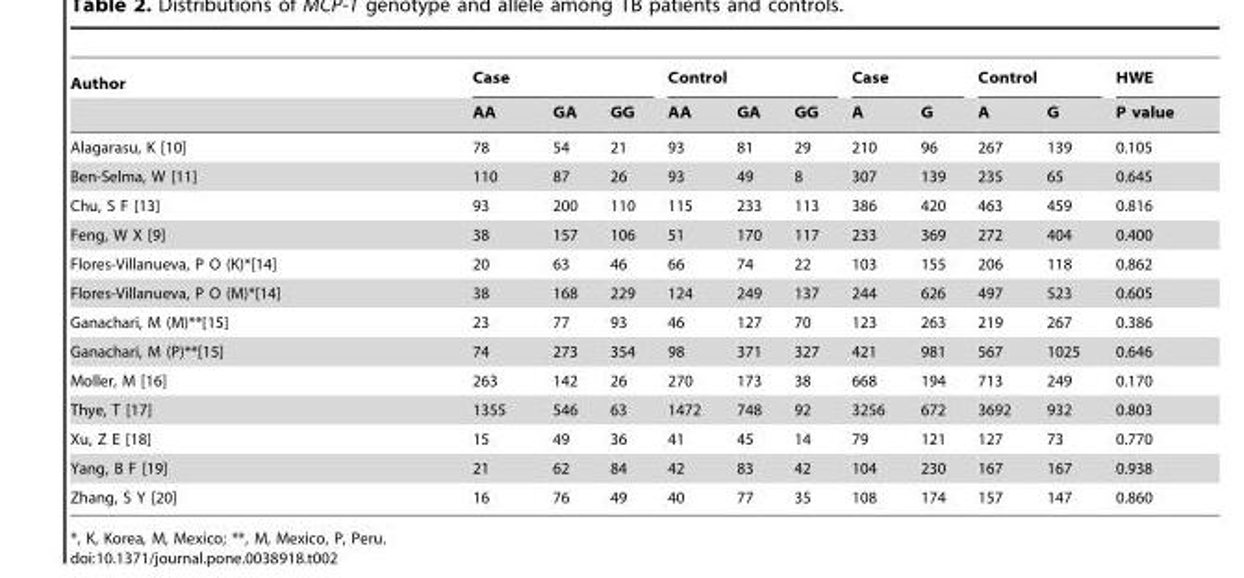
<table><thead><tr><td rowspan="2">Author</td><td colspan="3">Case</td><td colspan="3">Control</td><td colspan="2">Case</td><td colspan="2">Control</td><td rowspan="2">HWE P value</td></tr><tr><td>AA</td><td>GA</td><td>GG</td><td>AA</td><td>GA</td><td>GG</td><td>A</td><td>G</td><td>A</td><td>G</td></tr></thead><tbody><tr><td>Alagarasu, K [10]</td><td>78</td><td>54</td><td>21</td><td>93</td><td>81</td><td>29</td><td>210</td><td>96</td><td>267</td><td>139</td><td>0.105</td></tr><tr><td>Ben-Selma, W [11]</td><td>110</td><td>87</td><td>26</td><td>93</td><td>49</td><td>8</td><td>307</td><td>139</td><td>235</td><td>65</td><td>0.645</td></tr><tr><td>Chu, S F [13]</td><td>93</td><td>200</td><td>110</td><td>115</td><td>233</td><td>113</td><td>386</td><td>420</td><td>463</td><td>459</td><td>0.816</td></tr><tr><td>Feng, W X [9]</td><td>38</td><td>157</td><td>106</td><td>51</td><td>170</td><td>117</td><td>233</td><td>369</td><td>272</td><td>404</td><td>0.400</td></tr><tr><td>Flores-Villanueva, P O (K)*[14]</td><td>20</td><td>63</td><td>46</td><td>66</td><td>74</td><td>22</td><td>103</td><td>155</td><td>206</td><td>118</td><td>0.862</td></tr><tr><td>Flores-Villanueva, P O (M)*[14]</td><td>38</td><td>168</td><td>229</td><td>124</td><td>249</td><td>137</td><td>244</td><td>626</td><td>497</td><td>523</td><td>0.605</td></tr><tr><td>Ganachari, M (M)**[15]</td><td>23</td><td>77</td><td>93</td><td>46</td><td>127</td><td>70</td><td>123</td><td>263</td><td>219</td><td>267</td><td>0.386</td></tr><tr><td>Ganachari, M (P)**[15]</td><td>74</td><td>273</td><td>354</td><td>98</td><td>371</td><td>327</td><td>421</td><td>981</td><td>567</td><td>1025</td><td>0.646</td></tr><tr><td>Moller, M [16]</td><td>263</td><td>142</td><td>26</td><td>270</td><td>173</td><td>38</td><td>668</td><td>194</td><td>713</td><td>249</td><td>0.170</td></tr><tr><td>Thye, T [17]</td><td>1355</td><td>546</td><td>63</td><td>1472</td><td>748</td><td>92</td><td>3256</td><td>672</td><td>3692</td><td>932</td><td>0.803</td></tr><tr><td>Xu, Z E [18]</td><td>15</td><td>49</td><td>36</td><td>41</td><td>45</td><td>14</td><td>79</td><td>121</td><td>127</td><td>73</td><td>0.770</td></tr><tr><td>Yang, B F [19]</td><td>21</td><td>62</td><td>84</td><td>42</td><td>83</td><td>42</td><td>104</td><td>230</td><td>167</td><td>167</td><td>0.938</td></tr><tr><td>Zhang, S Y [20]</td><td>16</td><td>76</td><td>49</td><td>40</td><td>77</td><td>35</td><td>108</td><td>174</td><td>157</td><td>147</td><td>0.860</td></tr></tbody></table>